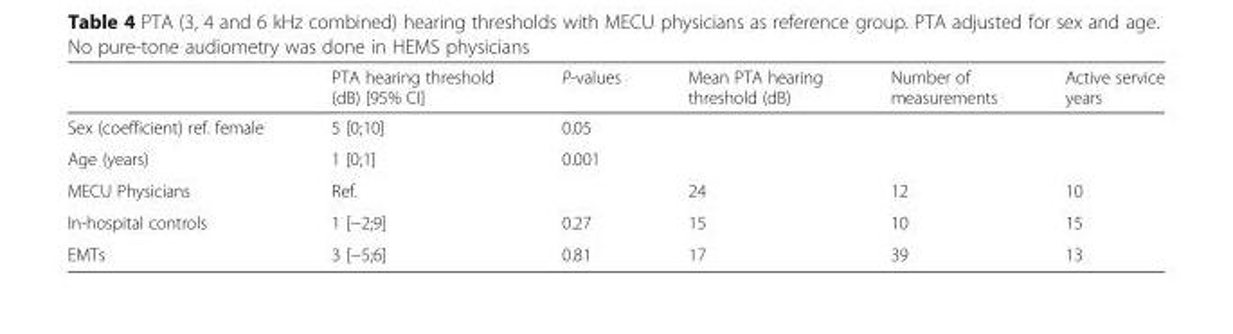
<table><thead><tr><td></td><td>PTA hearing threshold (dB) [95% CI]</td><td>P-values</td><td>Mean PTA hearing threshold (dB)</td><td>Number of measurements</td><td>Active service years</td></tr></thead><tbody><tr><td>Sex (coefficient) ref. female</td><td>5 [0;10]</td><td>0.05</td><td></td><td></td><td></td></tr><tr><td>Age (years)</td><td>1 [0;1]</td><td>0.001</td><td></td><td></td><td></td></tr><tr><td>MECU Physicians</td><td>Ref.</td><td></td><td>24</td><td>12</td><td>10</td></tr><tr><td>In-hospital controls</td><td>1 [−2;9]</td><td>0.27</td><td>15</td><td>10</td><td>15</td></tr><tr><td>EMTs</td><td>3 [−5;6]</td><td>0.81</td><td>17</td><td>39</td><td>13</td></tr></tbody></table>